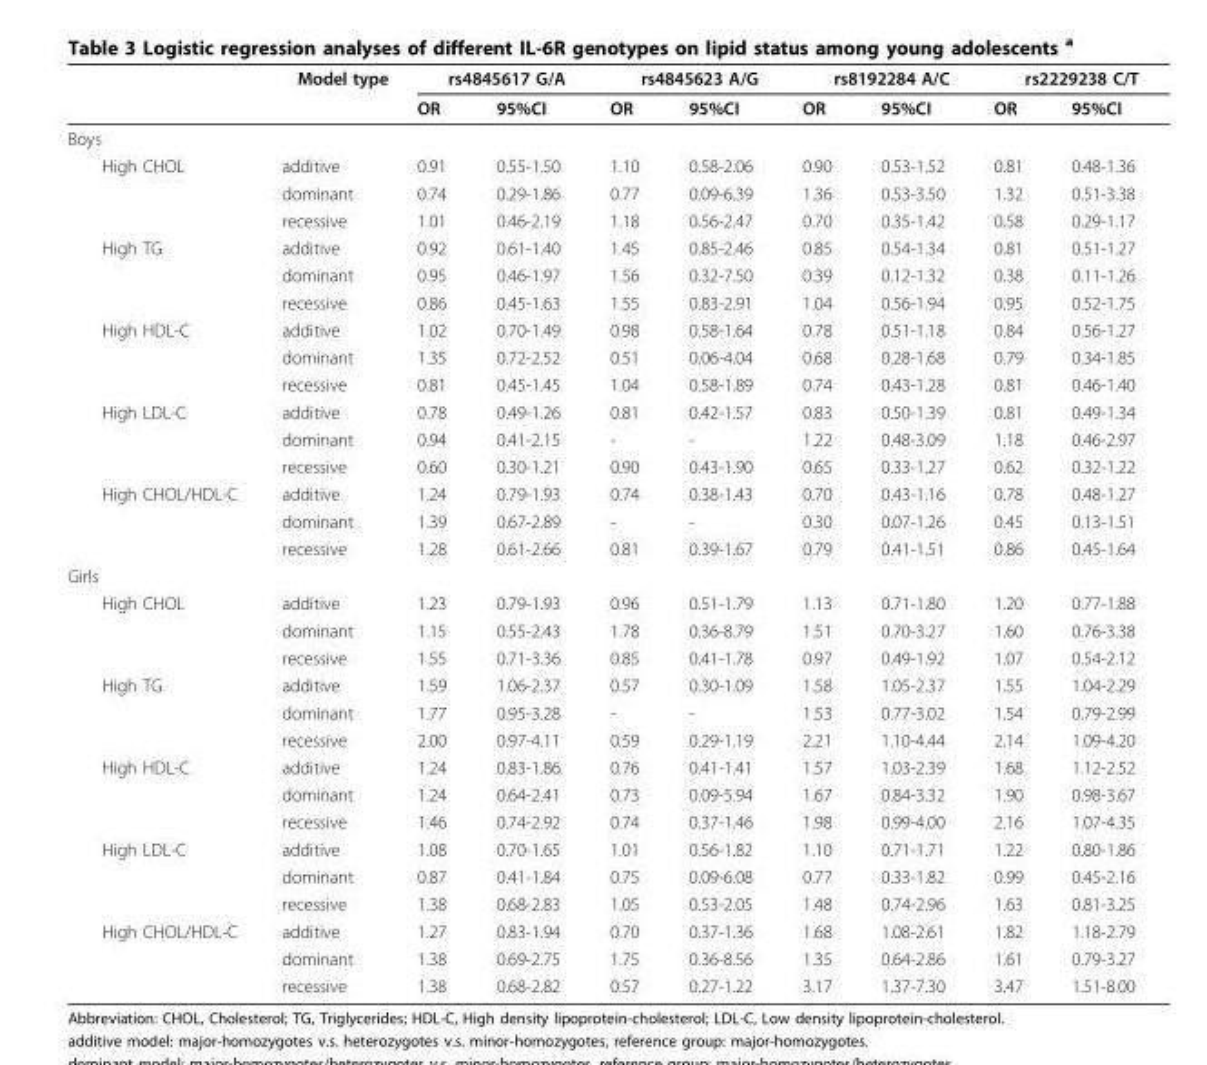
<table><thead><tr><td rowspan="2"></td><td rowspan="2">Model type</td><td colspan="2">rs4845617 G/A</td><td colspan="2">rs4845623 A/G</td><td colspan="2">rs8192284 A/C</td><td colspan="2">rs2229238 C/T</td></tr><tr><td>OR</td><td>95%CI</td><td>OR</td><td>95%CI</td><td>OR</td><td>95%CI</td><td>OR</td><td>95%CI</td></tr></thead><tbody><tr><td colspan="10">Boys</td></tr><tr><td rowspan="3">High CHOL</td><td>additive</td><td>0.91</td><td>0.55-1.50</td><td>1.10</td><td>0.58-2.06</td><td>0.90</td><td>0.53-1.52</td><td>0.81</td><td>0.48-1.36</td></tr><tr><td>dominant</td><td>0.74</td><td>0.29-1.86</td><td>0.77</td><td>0.09-6.39</td><td>1.36</td><td>0.53-3.50</td><td>1.32</td><td>0.51-3.38</td></tr><tr><td>recessive</td><td>1.01</td><td>0.46-2.19</td><td>1.18</td><td>0.56-2.47</td><td>0.70</td><td>0.35-1.42</td><td>0.58</td><td>0.29-1.17</td></tr><tr><td rowspan="3">High TG</td><td>additive</td><td>0.92</td><td>0.61-1.40</td><td>1.45</td><td>0.85-2.46</td><td>0.85</td><td>0.54-1.34</td><td>0.81</td><td>0.51-1.27</td></tr><tr><td>dominant</td><td>0.95</td><td>0.46-1.97</td><td>1.56</td><td>0.32-7.50</td><td>0.39</td><td>0.12-1.32</td><td>0.38</td><td>0.11-1.26</td></tr><tr><td>recessive</td><td>0.86</td><td>0.45-1.63</td><td>1.55</td><td>0.83-2.91</td><td>1.04</td><td>0.56-1.94</td><td>0.95</td><td>0.52-1.75</td></tr><tr><td rowspan="3">High HDL-C</td><td>additive</td><td>1.02</td><td>0.70-1.49</td><td>0.98</td><td>0.58-1.64</td><td>0.78</td><td>0.51-1.18</td><td>0.84</td><td>0.56-1.27</td></tr><tr><td>dominant</td><td>1.35</td><td>0.72-2.52</td><td>0.51</td><td>0.06-4.04</td><td>0.68</td><td>0.28-1.68</td><td>0.79</td><td>0.34-1.85</td></tr><tr><td>recessive</td><td>0.81</td><td>0.45-1.45</td><td>1.04</td><td>0.58-1.89</td><td>0.74</td><td>0.43-1.28</td><td>0.81</td><td>0.46-1.40</td></tr><tr><td rowspan="3">High LDL-C</td><td>additive</td><td>0.78</td><td>0.49-1.26</td><td>0.81</td><td>0.42-1.57</td><td>0.83</td><td>0.50-1.39</td><td>0.81</td><td>0.49-1.34</td></tr><tr><td>dominant</td><td>0.94</td><td>0.41-2.15</td><td>-</td><td>-</td><td>1.22</td><td>0.48-3.09</td><td>1.18</td><td>0.46-2.97</td></tr><tr><td>recessive</td><td>0.60</td><td>0.30-1.21</td><td>0.90</td><td>0.43-1.90</td><td>0.65</td><td>0.33-1.27</td><td>0.62</td><td>0.32-1.22</td></tr><tr><td rowspan="3">High CHOL/HDL-C</td><td>additive</td><td>1.24</td><td>0.79-1.93</td><td>0.74</td><td>0.38-1.43</td><td>0.70</td><td>0.43-1.16</td><td>0.78</td><td>0.48-1.27</td></tr><tr><td>dominant</td><td>1.39</td><td>0.67-2.89</td><td>-</td><td>-</td><td>0.30</td><td>0.07-1.26</td><td>0.45</td><td>0.13-1.51</td></tr><tr><td>recessive</td><td>1.28</td><td>0.61-2.66</td><td>0.81</td><td>0.39-1.67</td><td>0.79</td><td>0.41-1.51</td><td>0.86</td><td>0.45-1.64</td></tr><tr><td colspan="10">Girls</td></tr><tr><td rowspan="3">High CHOL</td><td>additive</td><td>1.23</td><td>0.79-1.93</td><td>0.96</td><td>0.51-1.79</td><td>1.13</td><td>0.71-1.80</td><td>1.20</td><td>0.77-1.88</td></tr><tr><td>dominant</td><td>1.15</td><td>0.55-2.43</td><td>1.78</td><td>0.36-8.79</td><td>1.51</td><td>0.70-3.27</td><td>1.60</td><td>0.76-3.38</td></tr><tr><td>recessive</td><td>1.55</td><td>0.71-3.36</td><td>0.85</td><td>0.41-1.78</td><td>0.97</td><td>0.49-1.92</td><td>1.07</td><td>0.54-2.12</td></tr><tr><td rowspan="3">High TG</td><td>additive</td><td>1.59</td><td>1.06-2.37</td><td>0.57</td><td>0.30-1.09</td><td>1.58</td><td>1.05-2.37</td><td>1.55</td><td>1.04-2.29</td></tr><tr><td>dominant</td><td>1.77</td><td>0.95-3.28</td><td>-</td><td>-</td><td>1.53</td><td>0.77-3.02</td><td>1.54</td><td>0.79-2.99</td></tr><tr><td>recessive</td><td>2.00</td><td>0.97-4.11</td><td>0.59</td><td>0.29-1.19</td><td>2.21</td><td>1.10-4.44</td><td>2.14</td><td>1.09-4.20</td></tr><tr><td rowspan="3">High HDL-C</td><td>additive</td><td>1.24</td><td>0.83-1.86</td><td>0.76</td><td>0.41-1.41</td><td>1.57</td><td>1.03-2.39</td><td>1.68</td><td>1.12-2.52</td></tr><tr><td>dominant</td><td>1.24</td><td>0.64-2.41</td><td>0.73</td><td>0.09-5.94</td><td>1.67</td><td>0.84-3.32</td><td>1.90</td><td>0.98-3.67</td></tr><tr><td>recessive</td><td>1.46</td><td>0.74-2.92</td><td>0.74</td><td>0.37-1.46</td><td>1.98</td><td>0.99-4.00</td><td>2.16</td><td>1.07-4.35</td></tr><tr><td rowspan="3">High LDL-C</td><td>additive</td><td>1.08</td><td>0.70-1.65</td><td>1.01</td><td>0.56-1.82</td><td>1.10</td><td>0.71-1.71</td><td>1.22</td><td>0.80-1.86</td></tr><tr><td>dominant</td><td>0.87</td><td>0.41-1.84</td><td>0.75</td><td>0.09-6.08</td><td>0.77</td><td>0.33-1.82</td><td>0.99</td><td>0.45-2.16</td></tr><tr><td>recessive</td><td>1.38</td><td>0.68-2.83</td><td>1.05</td><td>0.53-2.05</td><td>1.48</td><td>0.74-2.96</td><td>1.63</td><td>0.81-3.25</td></tr><tr><td rowspan="3">High CHOL/HDL-C</td><td>additive</td><td>1.27</td><td>0.83-1.94</td><td>0.70</td><td>0.37-1.36</td><td>1.68</td><td>1.08-2.61</td><td>1.82</td><td>1.18-2.79</td></tr><tr><td>dominant</td><td>1.38</td><td>0.69-2.75</td><td>1.75</td><td>0.36-8.56</td><td>1.35</td><td>0.64-2.86</td><td>1.61</td><td>0.79-3.27</td></tr><tr><td>recessive</td><td>1.38</td><td>0.68-2.82</td><td>0.57</td><td>0.27-1.22</td><td>3.17</td><td>1.37-7.30</td><td>3.47</td><td>1.51-8.00</td></tr></tbody></table>